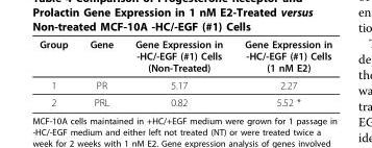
<table><thead><tr><td>Group</td><td>Gene</td><td>Gene Expression in -HC/-EGF (#1) Cells (Non-Treated)</td><td>Gene Expression in -HC/-EGF (#1) Cells (1 nM E2)</td></tr></thead><tbody><tr><td>1</td><td>PR</td><td>5.17</td><td>2.27</td></tr><tr><td>2</td><td>PRL</td><td>0.82</td><td>5.52 *</td></tr></tbody></table>